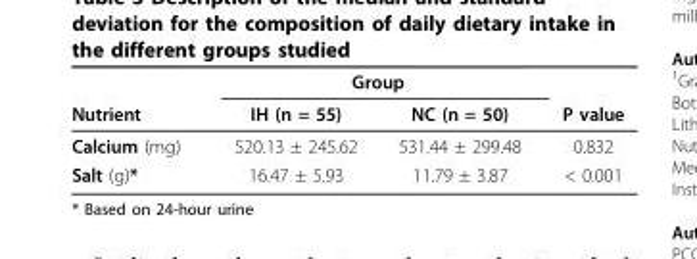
<table><thead><tr><td rowspan="2">Nutrient</td><td colspan="2">Group</td><td rowspan="2">P value</td></tr><tr><td>IH (n = 55)</td><td>NC (n = 50)</td></tr></thead><tbody><tr><td>Calcium (mg)</td><td>520.13 ± 245.62</td><td>531.44 ± 299.48</td><td>0.832</td></tr><tr><td>Salt (g)*</td><td>16.47 ± 5.93</td><td>11.79 ± 3.87</td><td>&lt; 0.001</td></tr></tbody></table>